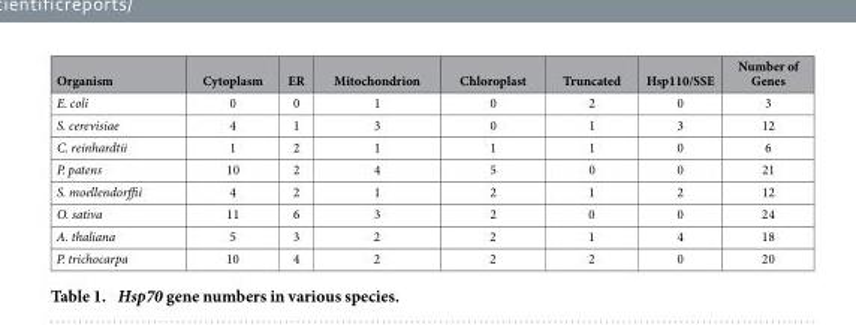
<table><thead><tr><td>Organism</td><td>Cytoplasm</td><td>ER</td><td>Mitochondrion</td><td>Chloroplast</td><td>Truncated</td><td>Hsp110/SSE</td><td>Number of Genes</td></tr></thead><tbody><tr><td>E. coli</td><td>0</td><td>0</td><td>1</td><td>0</td><td>2</td><td>0</td><td>3</td></tr><tr><td>S. cerevisiae</td><td>4</td><td>1</td><td>3</td><td>0</td><td>1</td><td>3</td><td>12</td></tr><tr><td>C. reinhardtii</td><td>1</td><td>2</td><td>1</td><td>1</td><td>1</td><td>0</td><td>6</td></tr><tr><td>P. patens</td><td>10</td><td>2</td><td>4</td><td>5</td><td>0</td><td>0</td><td>21</td></tr><tr><td>S. moellendorffii</td><td>4</td><td>2</td><td>1</td><td>2</td><td>1</td><td>2</td><td>12</td></tr><tr><td>O. sativa</td><td>11</td><td>6</td><td>3</td><td>2</td><td>0</td><td>0</td><td>24</td></tr><tr><td>A. thaliana</td><td>5</td><td>3</td><td>2</td><td>2</td><td>1</td><td>4</td><td>18</td></tr><tr><td>P. trichocarpa</td><td>10</td><td>4</td><td>2</td><td>2</td><td>2</td><td>0</td><td>20</td></tr></tbody></table>